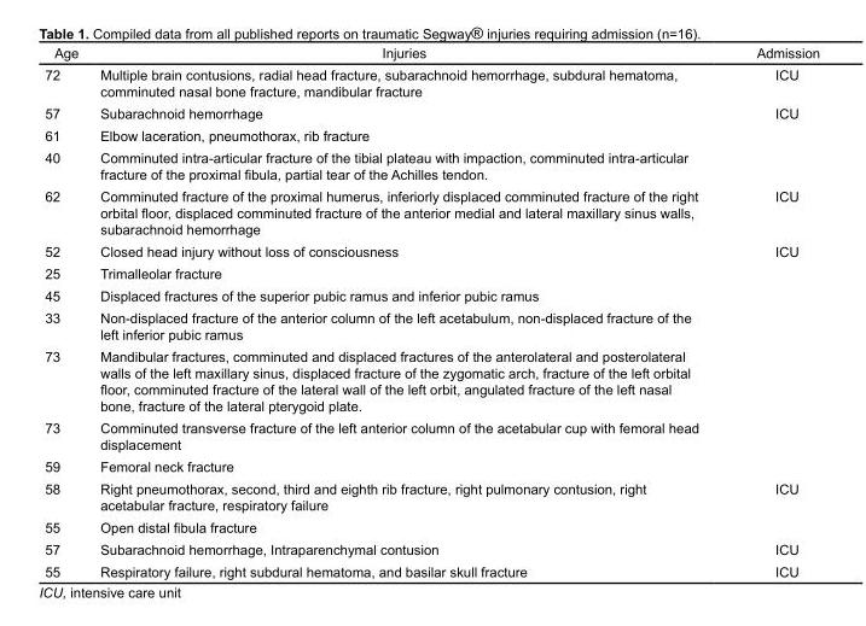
<table><thead><tr><td>Age</td><td>Injuries</td><td>Admission</td></tr></thead><tbody><tr><td>72</td><td>Multiple brain contusions, radial head fracture, subarachnoid hemorrhage, subdural hematoma, comminuted nasal bone fracture, mandibular fracture</td><td>ICU</td></tr><tr><td>57</td><td>Subarachnoid hemorrhage</td><td>ICU</td></tr><tr><td>61</td><td>Elbow laceration, pneumothorax, rib fracture</td><td></td></tr><tr><td>40</td><td>Comminuted intra-articular fracture of the tibial plateau with impaction, comminuted intra-articular fracture of the proximal fibula, partial tear of the Achilles tendon.</td><td></td></tr><tr><td>62</td><td>Comminuted fracture of the proximal humerus, inferiorly displaced comminuted fracture of the right orbital floor, displaced comminuted fracture of the anterior medial and lateral maxillary sinus walls, subarachnoid hemorrhage</td><td>ICU</td></tr><tr><td>52</td><td>Closed head injury without loss of consciousness</td><td>ICU</td></tr><tr><td>25</td><td>Trimalleolar fracture</td><td></td></tr><tr><td>45</td><td>Displaced fractures of the superior pubic ramus and inferior pubic ramus</td><td></td></tr><tr><td>33</td><td>Non-displaced fracture of the anterior column of the left acetabulum, non-displaced fracture of the left inferior pubic ramus</td><td></td></tr><tr><td>73</td><td>Mandibular fractures, comminuted and displaced fractures of the anterolateral and posterolateral walls of the left maxillary sinus, displaced fracture of the zygomatic arch, fracture of the left orbital floor, comminuted fracture of the lateral wall of the left orbit, angulated fracture of the left nasal bone, fracture of the lateral pterygoid plate.</td><td></td></tr><tr><td>73</td><td>Comminuted transverse fracture of the left anterior column of the acetabular cup with femoral head displacement</td><td></td></tr><tr><td>59</td><td>Femoral neck fracture</td><td></td></tr><tr><td>58</td><td>Right pneumothorax, second, third and eighth rib fracture, right pulmonary contusion, right acetabular fracture, respiratory failure</td><td>ICU</td></tr><tr><td>55</td><td>Open distal fibula fracture</td><td></td></tr><tr><td>57</td><td>Subarachnoid hemorrhage, Intraparenchymal contusion</td><td>ICU</td></tr><tr><td>55</td><td>Respiratory failure, right subdural hematoma, and basilar skull fracture</td><td>ICU</td></tr></tbody></table>